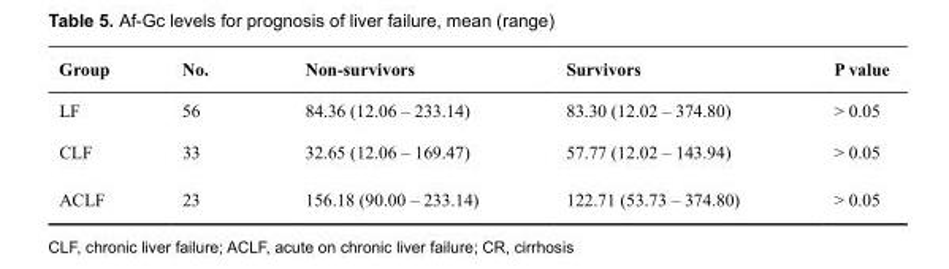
<table><thead><tr><td>Group</td><td>No.</td><td>Non-survivors</td><td>Survivors</td><td>P value</td></tr></thead><tbody><tr><td>LF</td><td>56</td><td>84.36 (12.06 – 233.14)</td><td>83.30 (12.02 – 374.80)</td><td>&gt; 0.05</td></tr><tr><td>CLF</td><td>33</td><td>32.65 (12.06 – 169.47)</td><td>57.77 (12.02 – 143.94)</td><td>&gt; 0.05</td></tr><tr><td>ACLF</td><td>23</td><td>156.18 (90.00 – 233.14)</td><td>122.71 (53.73 – 374.80)</td><td>&gt; 0.05</td></tr></tbody></table>